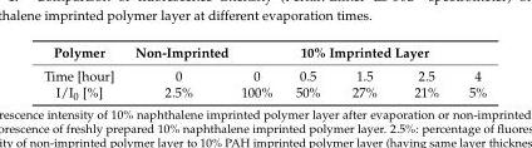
<table><thead><tr><td rowspan="2">Polymer Time [hour]</td><td rowspan="2">Non-Imprinted 0</td><td colspan="5">10% Imprinted Layer</td></tr><tr><td>0</td><td>0.5</td><td>1.5</td><td>2.5</td><td>4</td></tr></thead><tbody><tr><td>I/I<sub>0</sub> [%]</td><td>2.5%</td><td>100%</td><td>50%</td><td>27%</td><td>21%</td><td>5%</td></tr></tbody></table>